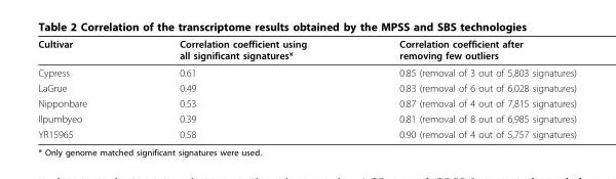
<table><thead><tr><td>Cultivar</td><td>Correlation coefficient using all significant signatures*</td><td>Correlation coefficient after removing few outliers</td></tr></thead><tbody><tr><td>Cypress</td><td>0.61</td><td>0.85 (removal of 3 out of 5,803 signatures)</td></tr><tr><td>LaGrue</td><td>0.49</td><td>0.83 (removal of 6 out of 6,028 signatures)</td></tr><tr><td>Nipponbare</td><td>0.53</td><td>0.87 (removal of 4 out of 7,815 signatures)</td></tr><tr><td>Ilpumbyeo</td><td>0.39</td><td>0.81 (removal of 8 out of 6,985 signatures)</td></tr><tr><td>YR15965</td><td>0.58</td><td>0.90 (removal of 4 out of 5,757 signatures)</td></tr></tbody></table>